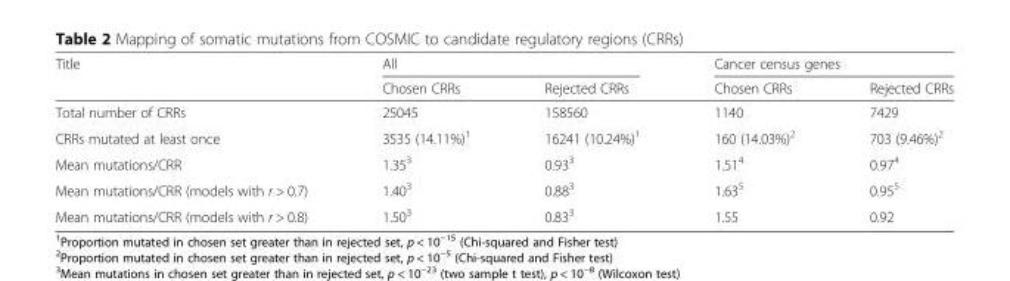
<table><thead><tr><td rowspan="2">Title</td><td colspan="2">All</td><td colspan="2">Cancer census genes</td></tr><tr><td>Chosen CRRs</td><td>Rejected CRRs</td><td>Chosen CRRs</td><td>Rejected CRRs</td></tr></thead><tbody><tr><td>Total number of CRRs</td><td>25045</td><td>158560</td><td>1140</td><td>7429</td></tr><tr><td>CRRs mutated at least once</td><td>3535 (14.11%)<sup>1</sup></td><td>16241 (10.24%)<sup>1</sup></td><td>160 (14.03%)<sup>2</sup></td><td>703 (9.46%)<sup>2</sup></td></tr><tr><td>Mean mutations/CRR</td><td>1.35<sup>3</sup></td><td>0.93<sup>3</sup></td><td>1.51<sup>4</sup></td><td>0.97<sup>4</sup></td></tr><tr><td>Mean mutations/CRR (models with r &gt; 0.7)</td><td>1.40<sup>3</sup></td><td>0.88<sup>3</sup></td><td>1.63<sup>5</sup></td><td>0.95<sup>5</sup></td></tr><tr><td>Mean mutations/CRR (models with r &gt; 0.8)</td><td>1.50<sup>3</sup></td><td>0.83<sup>3</sup></td><td>1.55</td><td>0.92</td></tr></tbody></table>